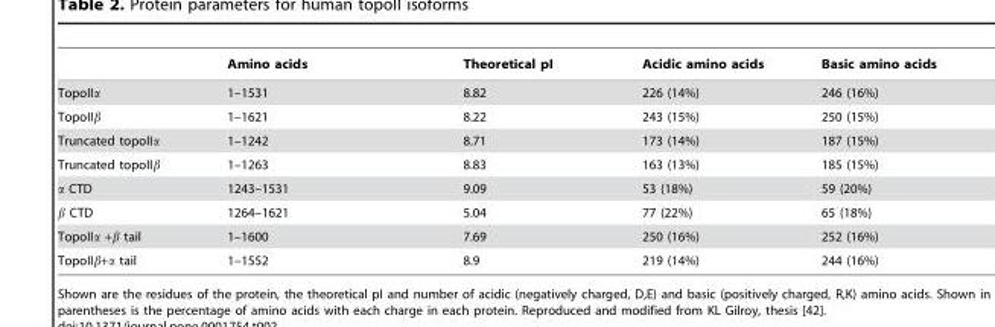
<table><thead><tr><td></td><td>Amino acids</td><td>Theoretical pI</td><td>Acidic amino acids</td><td>Basic amino acids</td></tr></thead><tbody><tr><td>TopoIIα</td><td>1–1531</td><td>8.82</td><td>226 (14%)</td><td>246 (16%)</td></tr><tr><td>TopoIIβ</td><td>1–1621</td><td>8.22</td><td>243 (15%)</td><td>250 (15%)</td></tr><tr><td>Truncated topoIIα</td><td>1–1242</td><td>8.71</td><td>173 (14%)</td><td>187 (15%)</td></tr><tr><td>Truncated topoIIβ</td><td>1–1263</td><td>8.83</td><td>163 (13%)</td><td>185 (15%)</td></tr><tr><td>α CTD</td><td>1243–1531</td><td>9.09</td><td>53 (18%)</td><td>59 (20%)</td></tr><tr><td>β CTD</td><td>1264–1621</td><td>5.04</td><td>77 (22%)</td><td>65 (18%)</td></tr><tr><td>TopoIIα +β tail</td><td>1–1600</td><td>7.69</td><td>250 (16%)</td><td>252 (16%)</td></tr><tr><td>TopoIIβ+α tail</td><td>1–1552</td><td>8.9</td><td>219 (14%)</td><td>244 (16%)</td></tr></tbody></table>